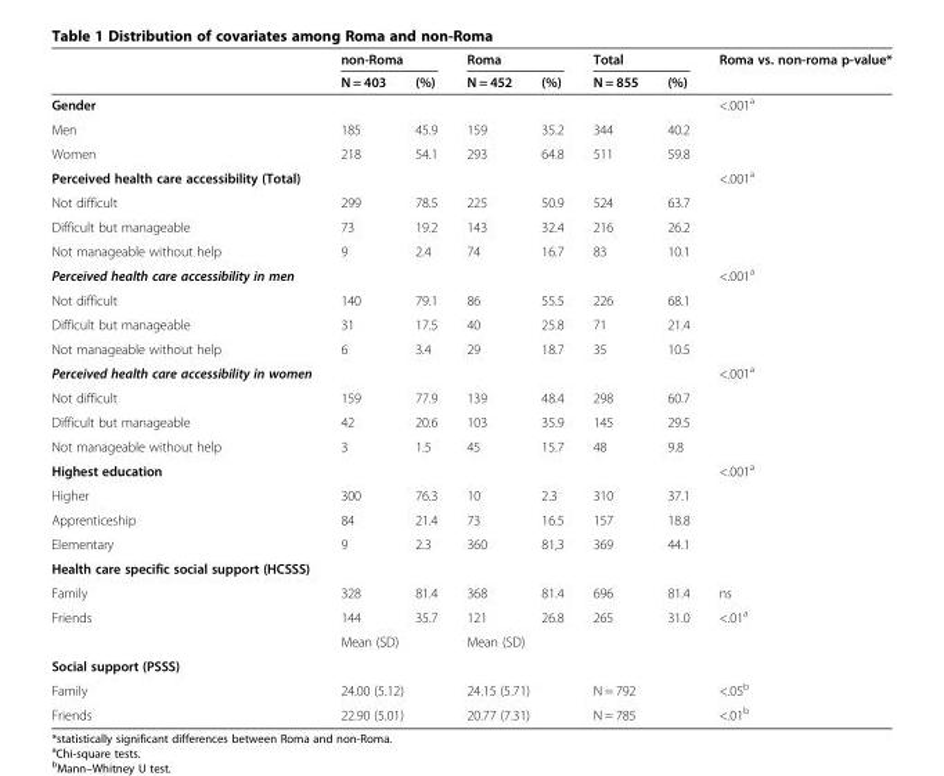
<table><thead><tr><td rowspan="2"></td><td colspan="2">non-Roma</td><td colspan="2">Roma</td><td colspan="2">Total</td><td rowspan="2">Roma vs. non-roma p-value*</td></tr><tr><td>N = 403</td><td>(%)</td><td>N = 452</td><td>(%)</td><td>N = 855</td><td>(%)</td></tr></thead><tbody><tr><td>Gender</td><td></td><td></td><td></td><td></td><td></td><td></td><td>&lt;.001<sup>a</sup></td></tr><tr><td>Men</td><td>185</td><td>45.9</td><td>159</td><td>35.2</td><td>344</td><td>40.2</td><td></td></tr><tr><td>Women</td><td>218</td><td>54.1</td><td>293</td><td>64.8</td><td>511</td><td>59.8</td><td></td></tr><tr><td>Perceived health care accessibility (Total)</td><td></td><td></td><td></td><td></td><td></td><td></td><td>&lt;.001<sup>a</sup></td></tr><tr><td>Not difficult</td><td>299</td><td>78.5</td><td>225</td><td>50.9</td><td>524</td><td>63.7</td><td></td></tr><tr><td>Difficult but manageable</td><td>73</td><td>19.2</td><td>143</td><td>32.4</td><td>216</td><td>26.2</td><td></td></tr><tr><td>Not manageable without help</td><td>9</td><td>2.4</td><td>74</td><td>16.7</td><td>83</td><td>10.1</td><td></td></tr><tr><td>Perceived health care accessibility in men</td><td></td><td></td><td></td><td></td><td></td><td></td><td>&lt;.001<sup>a</sup></td></tr><tr><td>Not difficult</td><td>140</td><td>79.1</td><td>86</td><td>55.5</td><td>226</td><td>68.1</td><td></td></tr><tr><td>Difficult but manageable</td><td>31</td><td>17.5</td><td>40</td><td>25.8</td><td>71</td><td>21.4</td><td></td></tr><tr><td>Not manageable without help</td><td>6</td><td>3.4</td><td>29</td><td>18.7</td><td>35</td><td>10.5</td><td></td></tr><tr><td>Perceived health care accessibility in women</td><td></td><td></td><td></td><td></td><td></td><td></td><td>&lt;.001<sup>a</sup></td></tr><tr><td>Not difficult</td><td>159</td><td>77.9</td><td>139</td><td>48.4</td><td>298</td><td>60.7</td><td></td></tr><tr><td>Difficult but manageable</td><td>42</td><td>20.6</td><td>103</td><td>35.9</td><td>145</td><td>29.5</td><td></td></tr><tr><td>Not manageable without help</td><td>3</td><td>1.5</td><td>45</td><td>15.7</td><td>48</td><td>9.8</td><td></td></tr><tr><td>Highest education</td><td></td><td></td><td></td><td></td><td></td><td></td><td>&lt;.001<sup>a</sup></td></tr><tr><td>Higher</td><td>300</td><td>76.3</td><td>10</td><td>2.3</td><td>310</td><td>37.1</td><td></td></tr><tr><td>Apprenticeship</td><td>84</td><td>21.4</td><td>73</td><td>16.5</td><td>157</td><td>18.8</td><td></td></tr><tr><td>Elementary</td><td>9</td><td>2.3</td><td>360</td><td>81,3</td><td>369</td><td>44.1</td><td></td></tr><tr><td colspan="8">Health care specific social support (HCSSS)</td></tr><tr><td>Family</td><td>328</td><td>81.4</td><td>368</td><td>81.4</td><td>696</td><td>81.4</td><td>ns</td></tr><tr><td rowspan="2">Friends</td><td>144</td><td>35.7</td><td>121</td><td>26.8</td><td>265</td><td>31.0</td><td>&lt;.01<sup>a</sup></td></tr><tr><td colspan="2">Mean (SD)</td><td colspan="2">Mean (SD)</td><td></td><td></td><td></td></tr><tr><td colspan="8">Social support (PSSS)</td></tr><tr><td>Family</td><td colspan="2">24.00 (5.12)</td><td colspan="2">24.15 (5.71)</td><td colspan="2">N = 792</td><td>&lt;.05<sup>b</sup></td></tr><tr><td>Friends</td><td colspan="2">22.90 (5.01)</td><td colspan="2">20.77 (7.31)</td><td colspan="2">N = 785</td><td>&lt;.01<sup>b</sup></td></tr></tbody></table>